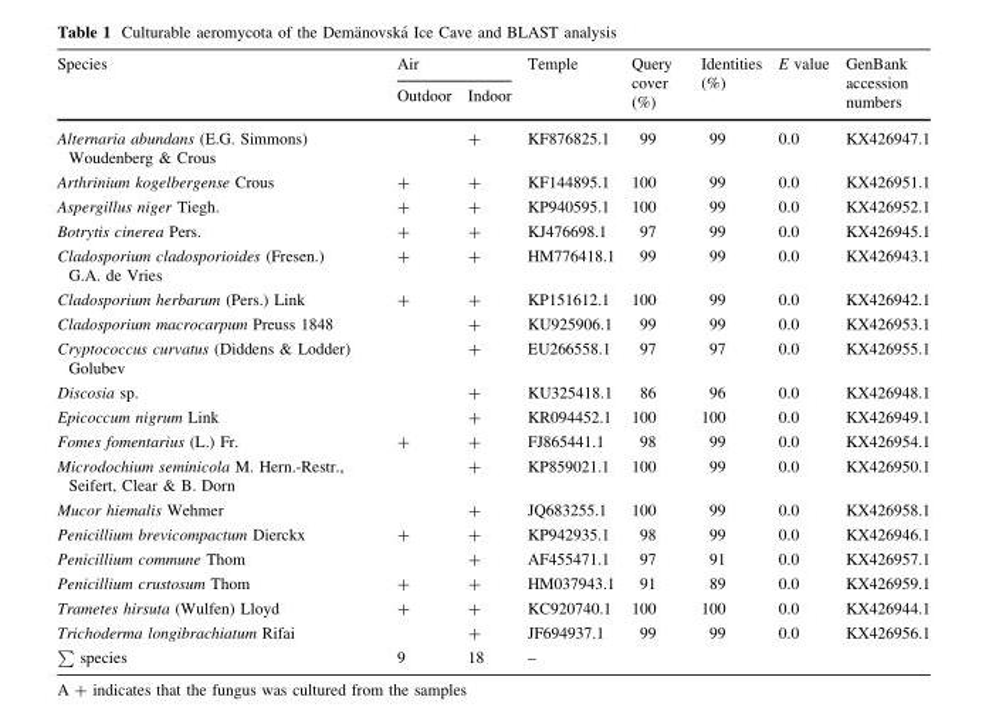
<table><thead><tr><td rowspan="2">Species</td><td colspan="2">Air</td><td rowspan="2">Temple</td><td rowspan="2">Query cover (%)</td><td rowspan="2">Identities (%)</td><td rowspan="2">E value</td><td rowspan="2">GenBank accession numbers</td></tr><tr><td>Outdoor</td><td>Indoor</td></tr></thead><tbody><tr><td>Alternaria abundans (E.G. Simmons) Woudenberg &amp; Crous</td><td></td><td>+</td><td>KF876825.1</td><td>99</td><td>99</td><td>0.0</td><td>KX426947.1</td></tr><tr><td>Arthrinium kogelbergense Crous</td><td>+</td><td>+</td><td>KF144895.1</td><td>100</td><td>99</td><td>0.0</td><td>KX426951.1</td></tr><tr><td>Aspergillus niger Tiegh.</td><td>+</td><td>+</td><td>KP940595.1</td><td>100</td><td>99</td><td>0.0</td><td>KX426952.1</td></tr><tr><td>Botrytis cinerea Pers.</td><td>+</td><td>+</td><td>KJ476698.1</td><td>97</td><td>99</td><td>0.0</td><td>KX426945.1</td></tr><tr><td>Cladosporium cladosporioides (Fresen.) G.A. de Vries</td><td>+</td><td>+</td><td>HM776418.1</td><td>99</td><td>99</td><td>0.0</td><td>KX426943.1</td></tr><tr><td>Cladosporium herbarum (Pers.) Link</td><td>+</td><td>+</td><td>KP151612.1</td><td>100</td><td>99</td><td>0.0</td><td>KX426942.1</td></tr><tr><td>Cladosporium macrocarpum Preuss 1848</td><td></td><td>+</td><td>KU925906.1</td><td>99</td><td>99</td><td>0.0</td><td>KX426953.1</td></tr><tr><td>Cryptococcus curvatus (Diddens &amp; Lodder) Golubev</td><td></td><td>+</td><td>EU266558.1</td><td>97</td><td>97</td><td>0.0</td><td>KX426955.1</td></tr><tr><td>Discosia sp.</td><td></td><td>+</td><td>KU325418.1</td><td>86</td><td>96</td><td>0.0</td><td>KX426948.1</td></tr><tr><td>Epicoccum nigrum Link</td><td></td><td>+</td><td>KR094452.1</td><td>100</td><td>100</td><td>0.0</td><td>KX426949.1</td></tr><tr><td>Fomes fomentarius (L.) Fr.</td><td>+</td><td>+</td><td>FJ865441.1</td><td>98</td><td>99</td><td>0.0</td><td>KX426954.1</td></tr><tr><td>Microdochium seminicola M. Hern.-Restr., Seifert, Clear &amp; B. Dorn</td><td></td><td>+</td><td>KP859021.1</td><td>100</td><td>99</td><td>0.0</td><td>KX426950.1</td></tr><tr><td>Mucor hiemalis Wehmer</td><td></td><td>+</td><td>JQ683255.1</td><td>100</td><td>99</td><td>0.0</td><td>KX426958.1</td></tr><tr><td>Penicillium brevicompactum Dierckx</td><td>+</td><td>+</td><td>KP942935.1</td><td>98</td><td>99</td><td>0.0</td><td>KX426946.1</td></tr><tr><td>Penicillium commune Thom</td><td></td><td>+</td><td>AF455471.1</td><td>97</td><td>91</td><td>0.0</td><td>KX426957.1</td></tr><tr><td>Penicillium crustosum Thom</td><td>+</td><td>+</td><td>HM037943.1</td><td>91</td><td>89</td><td>0.0</td><td>KX426959.1</td></tr><tr><td>Trametes hirsuta (Wulfen) Lloyd</td><td>+</td><td>+</td><td>KC920740.1</td><td>100</td><td>100</td><td>0.0</td><td>KX426944.1</td></tr><tr><td>Trichoderma longibrachiatum Rifai</td><td></td><td>+</td><td>JF694937.1</td><td>99</td><td>99</td><td>0.0</td><td>KX426956.1</td></tr><tr><td>species</td><td>9</td><td>18</td><td>–</td><td></td><td></td><td></td><td></td></tr></tbody></table>